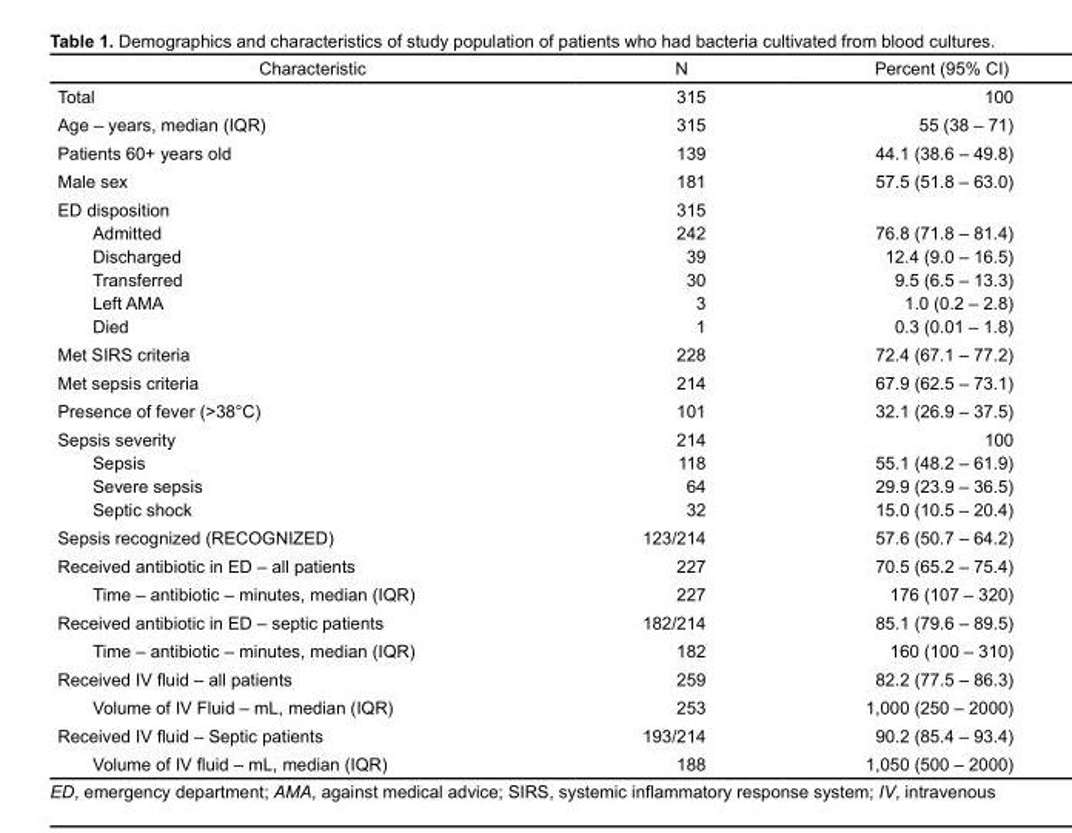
<table><thead><tr><td>Characteristic</td><td>N</td><td>Percent (95% CI)</td></tr></thead><tbody><tr><td>Total</td><td>315</td><td>100</td></tr><tr><td>Age – years, median (IQR)</td><td>315</td><td>55 (38 – 71)</td></tr><tr><td>Patients 60+ years old</td><td>139</td><td>44.1 (38.6 – 49.8)</td></tr><tr><td>Male sex</td><td>181</td><td>57.5 (51.8 – 63.0)</td></tr><tr><td>ED disposition</td><td>315</td><td></td></tr><tr><td>Admitted</td><td>242</td><td>76.8 (71.8 – 81.4)</td></tr><tr><td>Discharged</td><td>39</td><td>12.4 (9.0 – 16.5)</td></tr><tr><td>Transferred</td><td>30</td><td>9.5 (6.5 – 13.3)</td></tr><tr><td>Left AMA</td><td>3</td><td>1.0 (0.2 – 2.8)</td></tr><tr><td>Died</td><td>1</td><td>0.3 (0.01 – 1.8)</td></tr><tr><td>Met SIRS criteria</td><td>228</td><td>72.4 (67.1 – 77.2)</td></tr><tr><td>Met sepsis criteria</td><td>214</td><td>67.9 (62.5 – 73.1)</td></tr><tr><td>Presence of fever (&gt;38°C)</td><td>101</td><td>32.1 (26.9 – 37.5)</td></tr><tr><td>Sepsis severity</td><td>214</td><td>100</td></tr><tr><td>Sepsis</td><td>118</td><td>55.1 (48.2 – 61.9)</td></tr><tr><td>Severe sepsis</td><td>64</td><td>29.9 (23.9 – 36.5)</td></tr><tr><td>Septic shock</td><td>32</td><td>15.0 (10.5 – 20.4)</td></tr><tr><td>Sepsis recognized (RECOGNIZED)</td><td>123/214</td><td>57.6 (50.7 – 64.2)</td></tr><tr><td>Received antibiotic in ED – all patients</td><td>227</td><td>70.5 (65.2 – 75.4)</td></tr><tr><td>Time – antibiotic – minutes, median (IQR)</td><td>227</td><td>176 (107 – 320)</td></tr><tr><td>Received antibiotic in ED – septic patients</td><td>182/214</td><td>85.1 (79.6 – 89.5)</td></tr><tr><td>Time – antibiotic – minutes, median (IQR)</td><td>182</td><td>160 (100 – 310)</td></tr><tr><td>Received IV fluid – all patients</td><td>259</td><td>82.2 (77.5 – 86.3)</td></tr><tr><td>Volume of IV Fluid – mL, median (IQR)</td><td>253</td><td>1,000 (250 – 2000)</td></tr><tr><td>Received IV fluid – Septic patients</td><td>193/214</td><td>90.2 (85.4 – 93.4)</td></tr><tr><td>Volume of IV fluid – mL, median (IQR)</td><td>188</td><td>1,050 (500 – 2000)</td></tr></tbody></table>